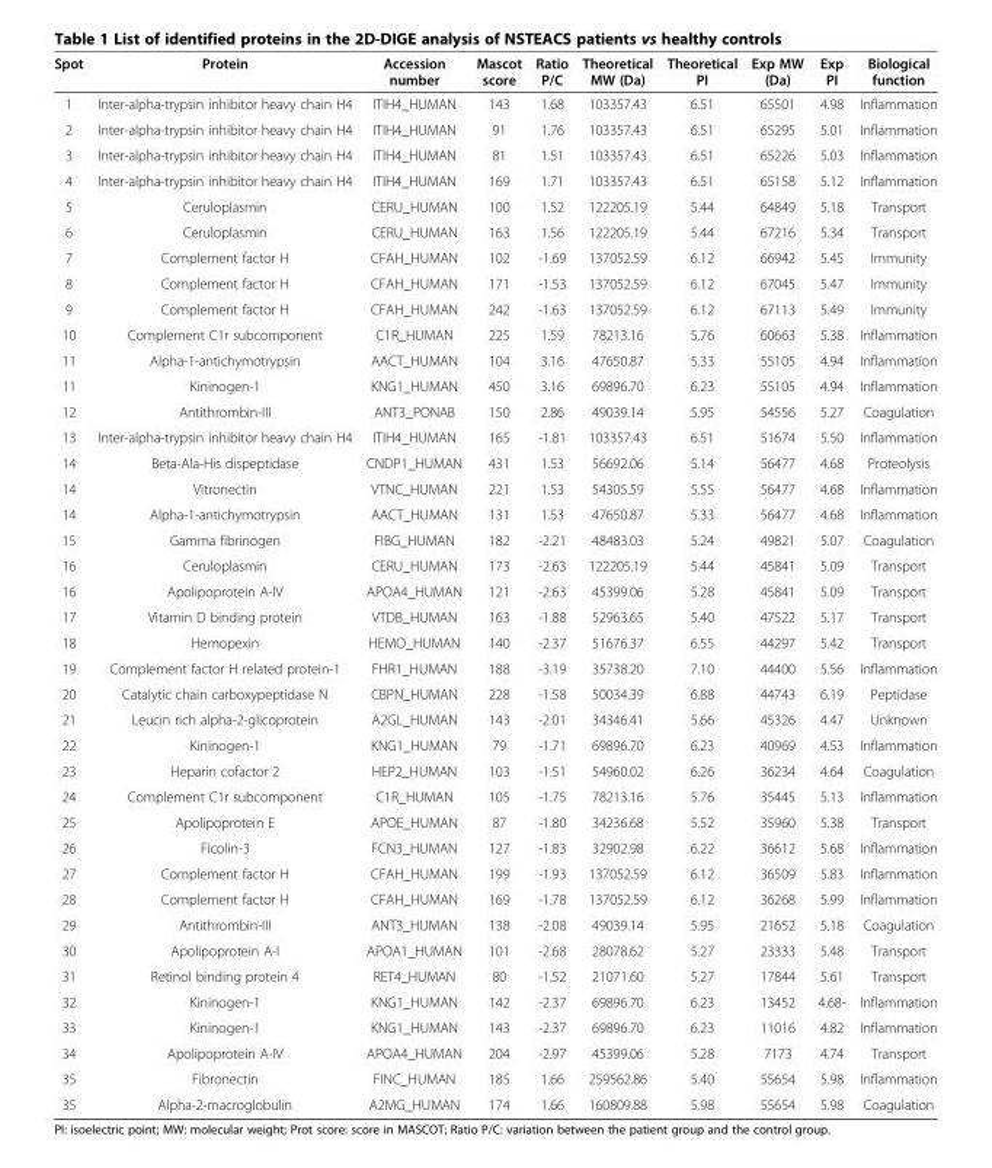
<table><thead><tr><td>Spot</td><td>Protein</td><td>Accession number</td><td>Mascot score</td><td>Ratio P/C</td><td>Theoretical MW (Da)</td><td>Theoretical PI</td><td>Exp MW (Da)</td><td>Exp PI</td><td>Biological function</td></tr></thead><tbody><tr><td>1</td><td>Inter-alpha-trypsin inhibitor heavy chain H4</td><td>ITIH4_HUMAN</td><td>143</td><td>1.68</td><td>103357.43</td><td>6.51</td><td>65501</td><td>4.98</td><td>Inflammation</td></tr><tr><td>2</td><td>Inter-alpha-trypsin inhibitor heavy chain H4</td><td>ITIH4_HUMAN</td><td>91</td><td>1.76</td><td>103357.43</td><td>6.51</td><td>65295</td><td>5.01</td><td>Inflammation</td></tr><tr><td>3</td><td>Inter-alpha-trypsin inhibitor heavy chain H4</td><td>ITIH4_HUMAN</td><td>81</td><td>1.51</td><td>103357.43</td><td>6.51</td><td>65226</td><td>5.03</td><td>Inflammation</td></tr><tr><td>4</td><td>Inter-alpha-trypsin inhibitor heavy chain H4</td><td>ITIH4_HUMAN</td><td>169</td><td>1.71</td><td>103357.43</td><td>6.51</td><td>65158</td><td>5.12</td><td>Inflammation</td></tr><tr><td>5</td><td>Ceruloplasmin</td><td>CERU_HUMAN</td><td>100</td><td>1.52</td><td>122205.19</td><td>5.44</td><td>64849</td><td>5.18</td><td>Transport</td></tr><tr><td>6</td><td>Ceruloplasmin</td><td>CERU_HUMAN</td><td>163</td><td>1.56</td><td>122205.19</td><td>5.44</td><td>67216</td><td>5.34</td><td>Transport</td></tr><tr><td>7</td><td>Complement factor H</td><td>CFAH_HUMAN</td><td>102</td><td>-1.69</td><td>137052.59</td><td>6.12</td><td>66942</td><td>5.45</td><td>Immunity</td></tr><tr><td>8</td><td>Complement factor H</td><td>CFAH_HUMAN</td><td>171</td><td>-1.53</td><td>137052.59</td><td>6.12</td><td>67045</td><td>5.47</td><td>Immunity</td></tr><tr><td>9</td><td>Complement factor H</td><td>CFAH_HUMAN</td><td>242</td><td>-1.63</td><td>137052.59</td><td>6.12</td><td>67113</td><td>5.49</td><td>Immunity</td></tr><tr><td>10</td><td>Complement C1r subcomponent</td><td>C1R_HUMAN</td><td>225</td><td>1.59</td><td>78213.16</td><td>5.76</td><td>60663</td><td>5.38</td><td>Inflammation</td></tr><tr><td>11</td><td>Alpha-1-antichymotrypsin</td><td>AACT_HUMAN</td><td>104</td><td>3.16</td><td>47650.87</td><td>5.33</td><td>55105</td><td>4.94</td><td>Inflammation</td></tr><tr><td>11</td><td>Kininogen-1</td><td>KNG1_HUMAN</td><td>450</td><td>3.16</td><td>69896.70</td><td>6.23</td><td>55105</td><td>4.94</td><td>Inflammation</td></tr><tr><td>12</td><td>Antithrombin-III</td><td>ANT3_PONAB</td><td>150</td><td>2.86</td><td>49039.14</td><td>5.95</td><td>54556</td><td>5.27</td><td>Coagulation</td></tr><tr><td>13</td><td>Inter-alpha-trypsin inhibitor heavy chain H4</td><td>ITIH4_HUMAN</td><td>165</td><td>-1.81</td><td>103357.43</td><td>6.51</td><td>51674</td><td>5.50</td><td>Inflammation</td></tr><tr><td>14</td><td>Beta-Ala-His dispeptidase</td><td>CNDP1_HUMAN</td><td>431</td><td>1.53</td><td>56692.06</td><td>5.14</td><td>56477</td><td>4.68</td><td>Proteolysis</td></tr><tr><td>14</td><td>Vitronectin</td><td>VTNC_HUMAN</td><td>221</td><td>1.53</td><td>54305.59</td><td>5.55</td><td>56477</td><td>4.68</td><td>Inflammation</td></tr><tr><td>14</td><td>Alpha-1-antichymotrypsin</td><td>AACT_HUMAN</td><td>131</td><td>1.53</td><td>47650.87</td><td>5.33</td><td>56477</td><td>4.68</td><td>Inflammation</td></tr><tr><td>15</td><td>Gamma fibrinogen</td><td>FIBG_HUMAN</td><td>182</td><td>-2.21</td><td>48483.03</td><td>5.24</td><td>49821</td><td>5.07</td><td>Coagulation</td></tr><tr><td>16</td><td>Ceruloplasmin</td><td>CERU_HUMAN</td><td>173</td><td>-2.63</td><td>122205.19</td><td>5.44</td><td>45841</td><td>5.09</td><td>Transport</td></tr><tr><td>16</td><td>Apolipoprotein A-IV</td><td>APOA4_HUMAN</td><td>121</td><td>-2.63</td><td>45399.06</td><td>5.28</td><td>45841</td><td>5.09</td><td>Transport</td></tr><tr><td>17</td><td>Vitamin D binding protein</td><td>VTDB_HUMAN</td><td>163</td><td>-1.88</td><td>52963.65</td><td>5.40</td><td>47522</td><td>5.17</td><td>Transport</td></tr><tr><td>18</td><td>Hemopexin</td><td>HEMO_HUMAN</td><td>140</td><td>-2.37</td><td>51676.37</td><td>6.55</td><td>44297</td><td>5.42</td><td>Transport</td></tr><tr><td>19</td><td>Complement factor H related protein-1</td><td>FHR1_HUMAN</td><td>188</td><td>-3.19</td><td>35738.20</td><td>7.10</td><td>44400</td><td>5.56</td><td>Inflammation</td></tr><tr><td>20</td><td>Catalytic chain carboxypeptidase N</td><td>CBPN_HUMAN</td><td>228</td><td>-1.58</td><td>50034.39</td><td>6.88</td><td>44743</td><td>6.19</td><td>Peptidase</td></tr><tr><td>21</td><td>Leucin rich alpha-2-glicoprotein</td><td>A2GL_HUMAN</td><td>143</td><td>-2.01</td><td>34346.41</td><td>5.66</td><td>45326</td><td>4.47</td><td>Unknown</td></tr><tr><td>22</td><td>Kininogen-1</td><td>KNG1_HUMAN</td><td>79</td><td>-1.71</td><td>69896.70</td><td>6.23</td><td>40969</td><td>4.53</td><td>Inflammation</td></tr><tr><td>23</td><td>Heparin cofactor 2</td><td>HEP2_HUMAN</td><td>103</td><td>-1.51</td><td>54960.02</td><td>6.26</td><td>36234</td><td>4.64</td><td>Coagulation</td></tr><tr><td>24</td><td>Complement C1r subcomponent</td><td>C1R_HUMAN</td><td>105</td><td>-1.75</td><td>78213.16</td><td>5.76</td><td>35445</td><td>5.13</td><td>Inflammation</td></tr><tr><td>25</td><td>Apolipoprotein E</td><td>APOE_HUMAN</td><td>87</td><td>-1.80</td><td>34236.68</td><td>5.52</td><td>35960</td><td>5.38</td><td>Transport</td></tr><tr><td>26</td><td>Ficolin-3</td><td>FCN3_HUMAN</td><td>127</td><td>-1.83</td><td>32902.98</td><td>6.22</td><td>36612</td><td>5.68</td><td>Inflammation</td></tr><tr><td>27</td><td>Complement factor H</td><td>CFAH_HUMAN</td><td>199</td><td>-1.93</td><td>137052.59</td><td>6.12</td><td>36509</td><td>5.83</td><td>Inflammation</td></tr><tr><td>28</td><td>Complement factor H</td><td>CFAH_HUMAN</td><td>169</td><td>-1.78</td><td>137052.59</td><td>6.12</td><td>36268</td><td>5.99</td><td>Inflammation</td></tr><tr><td>29</td><td>Antithrombin-III</td><td>ANT3_HUMAN</td><td>138</td><td>-2.08</td><td>49039.14</td><td>5.95</td><td>21652</td><td>5.18</td><td>Coagulation</td></tr><tr><td>30</td><td>Apolipoprotein A-I</td><td>APOA1_HUMAN</td><td>101</td><td>-2.68</td><td>28078.62</td><td>5.27</td><td>23333</td><td>5.48</td><td>Transport</td></tr><tr><td>31</td><td>Retinol binding protein 4</td><td>RET4_HUMAN</td><td>80</td><td>-1.52</td><td>21071.60</td><td>5.27</td><td>17844</td><td>5.61</td><td>Transport</td></tr><tr><td>32</td><td>Kininogen-1</td><td>KNG1_HUMAN</td><td>142</td><td>-2.37</td><td>69896.70</td><td>6.23</td><td>13452</td><td>4.68-</td><td>Inflammation</td></tr><tr><td>33</td><td>Kininogen-1</td><td>KNG1_HUMAN</td><td>143</td><td>-2.37</td><td>69896.70</td><td>6.23</td><td>11016</td><td>4.82</td><td>Inflammation</td></tr><tr><td>34</td><td>Apolipoprotein A-IV</td><td>APOA4_HUMAN</td><td>204</td><td>-2.97</td><td>45399.06</td><td>5.28</td><td>7173</td><td>4.74</td><td>Transport</td></tr><tr><td>35</td><td>Fibronectin</td><td>FINC_HUMAN</td><td>185</td><td>1.66</td><td>259562.86</td><td>5.40</td><td>55654</td><td>5.98</td><td>Inflammation</td></tr><tr><td>35</td><td>Alpha-2-macroglobulin</td><td>A2MG_HUMAN</td><td>174</td><td>1.66</td><td>160809.88</td><td>5.98</td><td>55654</td><td>5.98</td><td>Coagulation</td></tr></tbody></table>